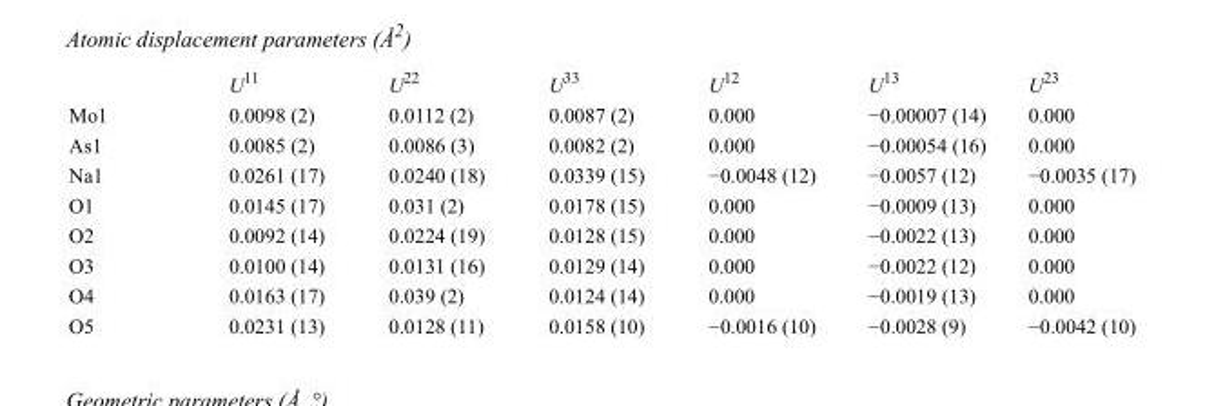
<table><thead><tr><td></td><td>U<sup>11</sup></td><td>U<sup>22</sup></td><td>U<sup>33</sup></td><td>U<sup>12</sup></td><td>U<sup>13</sup></td><td>U<sup>23</sup></td></tr></thead><tbody><tr><td>Mo1</td><td>0.0098 (2)</td><td>0.0112 (2)</td><td>0.0087 (2)</td><td>0.000</td><td>−0.00007 (14)</td><td>0.000</td></tr><tr><td>As1</td><td>0.0085 (2)</td><td>0.0086 (3)</td><td>0.0082 (2)</td><td>0.000</td><td>−0.00054 (16)</td><td>0.000</td></tr><tr><td>Na1</td><td>0.0261 (17)</td><td>0.0240 (18)</td><td>0.0339 (15)</td><td>−0.0048 (12)</td><td>−0.0057 (12)</td><td>−0.0035 (17)</td></tr><tr><td>O1</td><td>0.0145 (17)</td><td>0.031 (2)</td><td>0.0178 (15)</td><td>0.000</td><td>−0.0009 (13)</td><td>0.000</td></tr><tr><td>O2</td><td>0.0092 (14)</td><td>0.0224 (19)</td><td>0.0128 (15)</td><td>0.000</td><td>−0.0022 (13)</td><td>0.000</td></tr><tr><td>O3</td><td>0.0100 (14)</td><td>0.0131 (16)</td><td>0.0129 (14)</td><td>0.000</td><td>−0.0022 (12)</td><td>0.000</td></tr><tr><td>O4</td><td>0.0163 (17)</td><td>0.039 (2)</td><td>0.0124 (14)</td><td>0.000</td><td>−0.0019 (13)</td><td>0.000</td></tr><tr><td>O5</td><td>0.0231 (13)</td><td>0.0128 (11)</td><td>0.0158 (10)</td><td>−0.0016 (10)</td><td>−0.0028 (9)</td><td>−0.0042 (10)</td></tr></tbody></table>